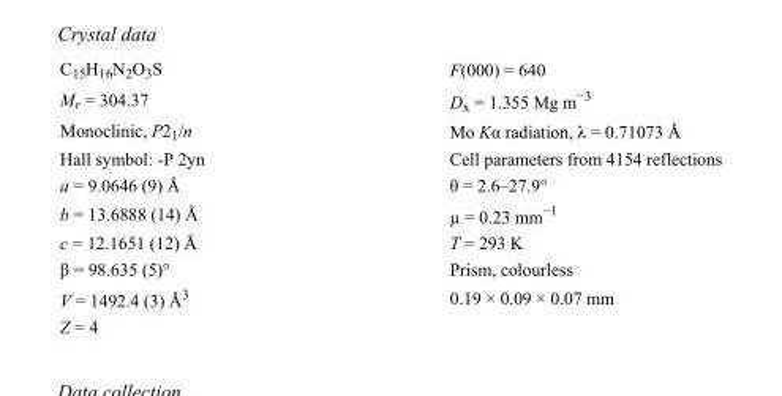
<table><tbody><tr><td>C<sub>15</sub>H<sub>16</sub>N<sub>2</sub>O<sub>3</sub>S</td><td>F(000) = 640</td></tr><tr><td>M<sub>r</sub> = 304.37</td><td>D<sub>x</sub> = 1.355 Mg m<sup>−3</sup></td></tr><tr><td>Monoclinic, P2<sub>1</sub>/n</td><td>Mo Kα radiation, λ = 0.71073 Å</td></tr><tr><td>Hall symbol: -P 2yn</td><td>Cell parameters from 4154 reflections</td></tr><tr><td>a = 9.0646 (9) Å</td><td>θ = 2.6–27.9°</td></tr><tr><td>b = 13.6888 (14) Å</td><td>µ = 0.23 mm<sup>−1</sup></td></tr><tr><td>c = 12.1651 (12) Å</td><td>T = 293 K</td></tr><tr><td>β = 98.635 (5)°</td><td>Prism, colourless</td></tr><tr><td>V = 1492.4 (3) Å<sup>3</sup></td><td>0.19 × 0.09 × 0.07 mm</td></tr><tr><td>Z = 4</td><td></td></tr></tbody></table>